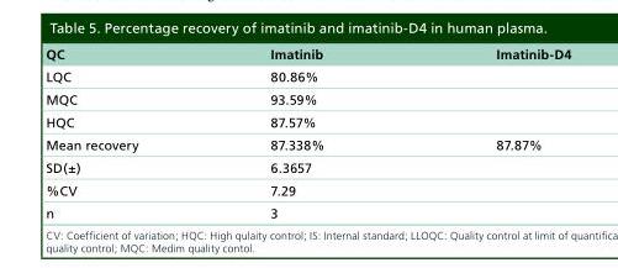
<table><thead><tr><td>QC</td><td>Imatinib</td><td>Imatinib-D4</td></tr></thead><tbody><tr><td>LQC</td><td>80.86%</td><td></td></tr><tr><td>MQC</td><td>93.59%</td><td></td></tr><tr><td>HQC</td><td>87.57%</td><td></td></tr><tr><td>Mean recovery</td><td>87.338%</td><td>87.87%</td></tr><tr><td>SD(±)</td><td>6.3657</td><td></td></tr><tr><td>%CV</td><td>7.29</td><td></td></tr><tr><td>n</td><td>3</td><td></td></tr></tbody></table>